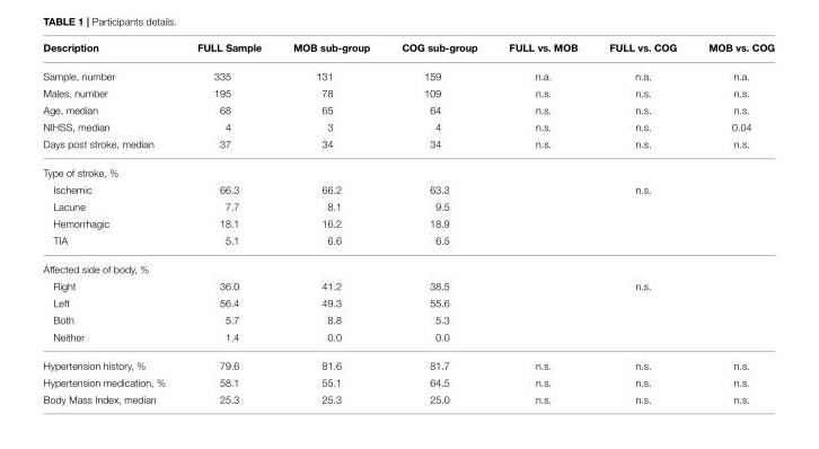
<table><thead><tr><td>Description</td><td>FULL Sample</td><td>MOB sub-group</td><td>COG sub-group</td><td>FULL vs. MOB</td><td>FULL vs. COG</td><td>MOB vs. COG</td></tr></thead><tbody><tr><td>Sample, number</td><td>335</td><td>131</td><td>159</td><td>n.a.</td><td>n.a.</td><td>n.a.</td></tr><tr><td>Males, number</td><td>195</td><td>78</td><td>109</td><td>n.s.</td><td>n.s.</td><td>n.s.</td></tr><tr><td>Age, median</td><td>68</td><td>65</td><td>64</td><td>n.s.</td><td>n.s.</td><td>n.s.</td></tr><tr><td>NIHSS, median</td><td>4</td><td>3</td><td>4</td><td>n.s.</td><td>n.s.</td><td>0.04</td></tr><tr><td>Days post stroke, median</td><td>37</td><td>34</td><td>34</td><td>n.s.</td><td>n.s.</td><td>n.s.</td></tr><tr><td colspan="7">Type of stroke, %</td></tr><tr><td>Ischemic</td><td>66.3</td><td>66.2</td><td>63.3</td><td></td><td>n.s.</td><td></td></tr><tr><td>Lacune</td><td>7.7</td><td>8.1</td><td>9.5</td><td></td><td></td><td></td></tr><tr><td>Hemorrhagic</td><td>18.1</td><td>16.2</td><td>18.9</td><td></td><td></td><td></td></tr><tr><td>TIA</td><td>5.1</td><td>6.6</td><td>6.5</td><td></td><td></td><td></td></tr><tr><td colspan="7">Affected side of body, %</td></tr><tr><td>Right</td><td>36.0</td><td>41.2</td><td>38.5</td><td></td><td>n.s.</td><td></td></tr><tr><td>Left</td><td>56.4</td><td>49.3</td><td>55.6</td><td></td><td></td><td></td></tr><tr><td>Both</td><td>5.7</td><td>8.8</td><td>5.3</td><td></td><td></td><td></td></tr><tr><td>Neither</td><td>1.4</td><td>0.0</td><td>0.0</td><td></td><td></td><td></td></tr><tr><td>Hypertension history, %</td><td>79.6</td><td>81.6</td><td>81.7</td><td>n.s.</td><td>n.s.</td><td>n.s.</td></tr><tr><td>Hypertension medication, %</td><td>58.1</td><td>55.1</td><td>64.5</td><td>n.s.</td><td>n.s.</td><td>n.s.</td></tr><tr><td>Body Mass Index, median</td><td>25.3</td><td>25.3</td><td>25.0</td><td>n.s.</td><td>n.s.</td><td>n.s.</td></tr></tbody></table>